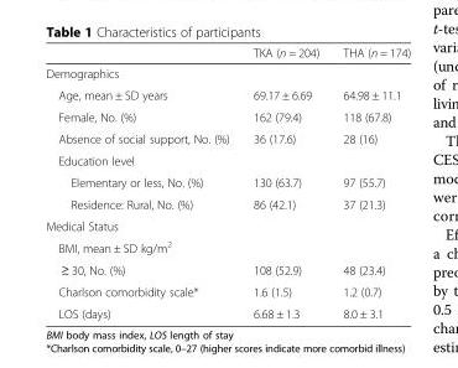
<table><thead><tr><td></td><td>TKA (n = 204)</td><td>THA (n = 174)</td></tr></thead><tbody><tr><td colspan="3">Demographics</td></tr><tr><td>Age, mean ± SD years</td><td>69.17 ± 6.69</td><td>64.98 ± 11.1</td></tr><tr><td>Female, No. (%)</td><td>162 (79.4)</td><td>118 (67.8)</td></tr><tr><td>Absence of social support, No. (%)</td><td>36 (17.6)</td><td>28 (16)</td></tr><tr><td colspan="3">Education level</td></tr><tr><td>Elementary or less, No. (%)</td><td>130 (63.7)</td><td>97 (55.7)</td></tr><tr><td>Residence: Rural, No. (%)</td><td>86 (42.1)</td><td>37 (21.3)</td></tr><tr><td colspan="3">Medical Status</td></tr><tr><td colspan="3">BMI, mean ± SD kg/m<sup>2</sup></td></tr><tr><td>≥ 30, No. (%)</td><td>108 (52.9)</td><td>48 (23.4)</td></tr><tr><td>Charlson comorbidity scale*</td><td>1.6 (1.5)</td><td>1.2 (0.7)</td></tr><tr><td>LOS (days)</td><td>6.68 ± 1.3</td><td>8.0 ± 3.1</td></tr></tbody></table>